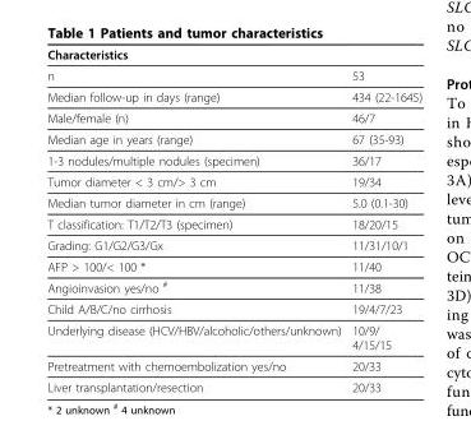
<table><thead><tr><td>Characteristics</td><td></td></tr></thead><tbody><tr><td>n</td><td>53</td></tr><tr><td>Median follow-up in days (range)</td><td>434 (22-1645)</td></tr><tr><td>Male/female (n)</td><td>46/7</td></tr><tr><td>Median age in years (range)</td><td>67 (35-93)</td></tr><tr><td>1-3 nodules/multiple nodules (specimen)</td><td>36/17</td></tr><tr><td>Tumor diameter &lt; 3 cm/&gt; 3 cm</td><td>19/34</td></tr><tr><td>Median tumor diameter in cm (range)</td><td>5.0 (0.1-30)</td></tr><tr><td>T classification: T1/T2/T3 (specimen)</td><td>18/20/15</td></tr><tr><td>Grading: G1/G2/G3/Gx</td><td>11/31/10/1</td></tr><tr><td>AFP &gt; 100/&lt; 100 *</td><td>11/40</td></tr><tr><td>Angioinvasion yes/no <sup>#</sup></td><td>11/38</td></tr><tr><td>Child A/B/C/no cirrhosis</td><td>19/4/7/23</td></tr><tr><td>Underlying disease (HCV/HBV/alcoholic/others/unknown)</td><td>10/9/ 4/15/15</td></tr><tr><td>Pretreatment with chemoembolization yes/no</td><td>20/33</td></tr><tr><td>Liver transplantation/resection</td><td>20/33</td></tr></tbody></table>